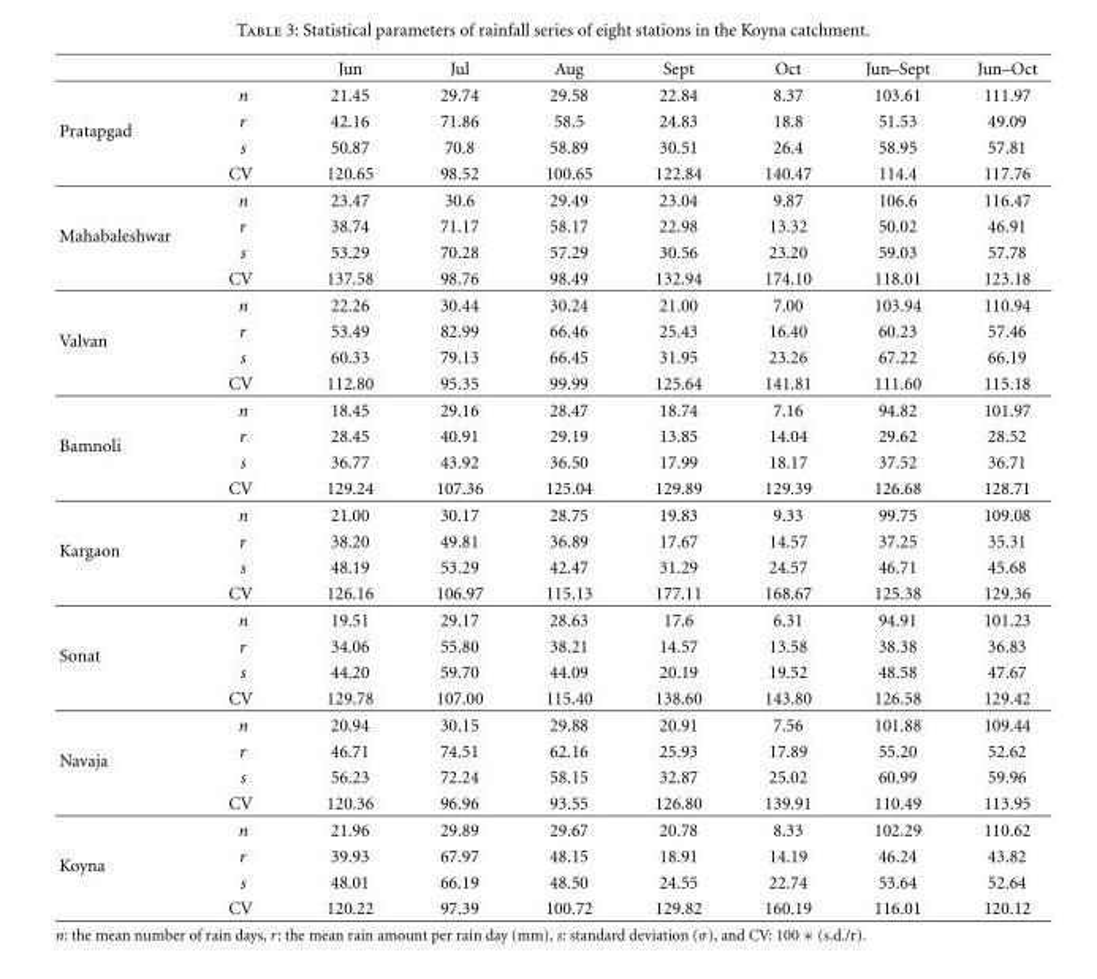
<table><thead><tr><td></td><td></td><td>Jun</td><td>Jul</td><td>Aug</td><td>Sept</td><td>Oct</td><td>Jun–Sept</td><td>Jun–Oct</td></tr></thead><tbody><tr><td rowspan="4">Pratapgad</td><td>n</td><td>21.45</td><td>29.74</td><td>29.58</td><td>22.84</td><td>8.37</td><td>103.61</td><td>111.97</td></tr><tr><td>r</td><td>42.16</td><td>71.86</td><td>58.5</td><td>24.83</td><td>18.8</td><td>51.53</td><td>49.09</td></tr><tr><td>s</td><td>50.87</td><td>70.8</td><td>58.89</td><td>30.51</td><td>26.4</td><td>58.95</td><td>57.81</td></tr><tr><td>CV</td><td>120.65</td><td>98.52</td><td>100.65</td><td>122.84</td><td>140.47</td><td>114.4</td><td>117.76</td></tr><tr><td rowspan="4">Mahabaleshwar</td><td>n</td><td>23.47</td><td>30.6</td><td>29.49</td><td>23.04</td><td>9.87</td><td>106.6</td><td>116.47</td></tr><tr><td>r</td><td>38.74</td><td>71.17</td><td>58.17</td><td>22.98</td><td>13.32</td><td>50.02</td><td>46.91</td></tr><tr><td>s</td><td>53.29</td><td>70.28</td><td>57.29</td><td>30.56</td><td>23.20</td><td>59.03</td><td>57.78</td></tr><tr><td>CV</td><td>137.58</td><td>98.76</td><td>98.49</td><td>132.94</td><td>174.10</td><td>118.01</td><td>123.18</td></tr><tr><td rowspan="4">Valvan</td><td>n</td><td>22.26</td><td>30.44</td><td>30.24</td><td>21.00</td><td>7.00</td><td>103.94</td><td>110.94</td></tr><tr><td>r</td><td>53.49</td><td>82.99</td><td>66.46</td><td>25.43</td><td>16.40</td><td>60.23</td><td>57.46</td></tr><tr><td>s</td><td>60.33</td><td>79.13</td><td>66.45</td><td>31.95</td><td>23.26</td><td>67.22</td><td>66.19</td></tr><tr><td>CV</td><td>112.80</td><td>95.35</td><td>99.99</td><td>125.64</td><td>141.81</td><td>111.60</td><td>115.18</td></tr><tr><td rowspan="4">Bamnoli</td><td>n</td><td>18.45</td><td>29.16</td><td>28.47</td><td>18.74</td><td>7.16</td><td>94.82</td><td>101.97</td></tr><tr><td>r</td><td>28.45</td><td>40.91</td><td>29.19</td><td>13.85</td><td>14.04</td><td>29.62</td><td>28.52</td></tr><tr><td>s</td><td>36.77</td><td>43.92</td><td>36.50</td><td>17.99</td><td>18.17</td><td>37.52</td><td>36.71</td></tr><tr><td>CV</td><td>129.24</td><td>107.36</td><td>125.04</td><td>129.89</td><td>129.39</td><td>126.68</td><td>128.71</td></tr><tr><td rowspan="4">Kargaon</td><td>n</td><td>21.00</td><td>30.17</td><td>28.75</td><td>19.83</td><td>9.33</td><td>99.75</td><td>109.08</td></tr><tr><td>r</td><td>38.20</td><td>49.81</td><td>36.89</td><td>17.67</td><td>14.57</td><td>37.25</td><td>35.31</td></tr><tr><td>s</td><td>48.19</td><td>53.29</td><td>42.47</td><td>31.29</td><td>24.57</td><td>46.71</td><td>45.68</td></tr><tr><td>CV</td><td>126.16</td><td>106.97</td><td>115.13</td><td>177.11</td><td>168.67</td><td>125.38</td><td>129.36</td></tr><tr><td rowspan="4">Sonat</td><td>n</td><td>19.51</td><td>29.17</td><td>28.63</td><td>17.6</td><td>6.31</td><td>94.91</td><td>101.23</td></tr><tr><td>r</td><td>34.06</td><td>55.80</td><td>38.21</td><td>14.57</td><td>13.58</td><td>38.38</td><td>36.83</td></tr><tr><td>s</td><td>44.20</td><td>59.70</td><td>44.09</td><td>20.19</td><td>19.52</td><td>48.58</td><td>47.67</td></tr><tr><td>CV</td><td>129.78</td><td>107.00</td><td>115.40</td><td>138.60</td><td>143.80</td><td>126.58</td><td>129.42</td></tr><tr><td rowspan="4">Navaja</td><td>n</td><td>20.94</td><td>30.15</td><td>29.88</td><td>20.91</td><td>7.56</td><td>101.88</td><td>109.44</td></tr><tr><td>r</td><td>46.71</td><td>74.51</td><td>62.16</td><td>25.93</td><td>17.89</td><td>55.20</td><td>52.62</td></tr><tr><td>s</td><td>56.23</td><td>72.24</td><td>58.15</td><td>32.87</td><td>25.02</td><td>60.99</td><td>59.96</td></tr><tr><td>CV</td><td>120.36</td><td>96.96</td><td>93.55</td><td>126.80</td><td>139.91</td><td>110.49</td><td>113.95</td></tr><tr><td rowspan="4">Koyna</td><td>n</td><td>21.96</td><td>29.89</td><td>29.67</td><td>20.78</td><td>8.33</td><td>102.29</td><td>110.62</td></tr><tr><td>r</td><td>39.93</td><td>67.97</td><td>48.15</td><td>18.91</td><td>14.19</td><td>46.24</td><td>43.82</td></tr><tr><td>s</td><td>48.01</td><td>66.19</td><td>48.50</td><td>24.55</td><td>22.74</td><td>53.64</td><td>52.64</td></tr><tr><td>CV</td><td>120.22</td><td>97.39</td><td>100.72</td><td>129.82</td><td>160.19</td><td>116.01</td><td>120.12</td></tr></tbody></table>